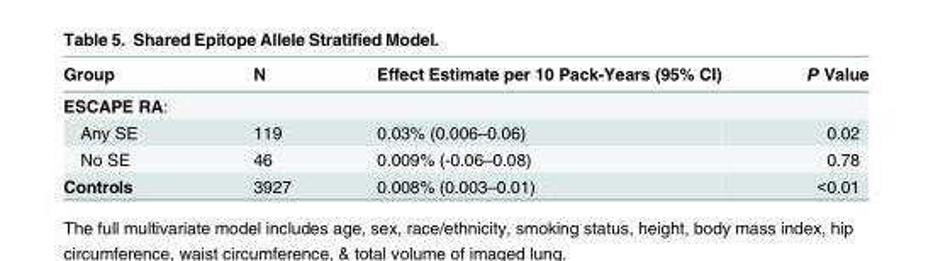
<table><thead><tr><td>Group</td><td>N</td><td>Effect Estimate per 10 Pack-Years (95% CI)</td><td>P Value</td></tr></thead><tbody><tr><td colspan="4">ESCAPE RA:</td></tr><tr><td>Any SE</td><td>119</td><td>0.03% (0.006–0.06)</td><td>0.02</td></tr><tr><td>No SE</td><td>46</td><td>0.009% (-0.06–0.08)</td><td>0.78</td></tr><tr><td>Controls</td><td>3927</td><td>0.008% (0.003–0.01)</td><td>&lt;0.01</td></tr></tbody></table>